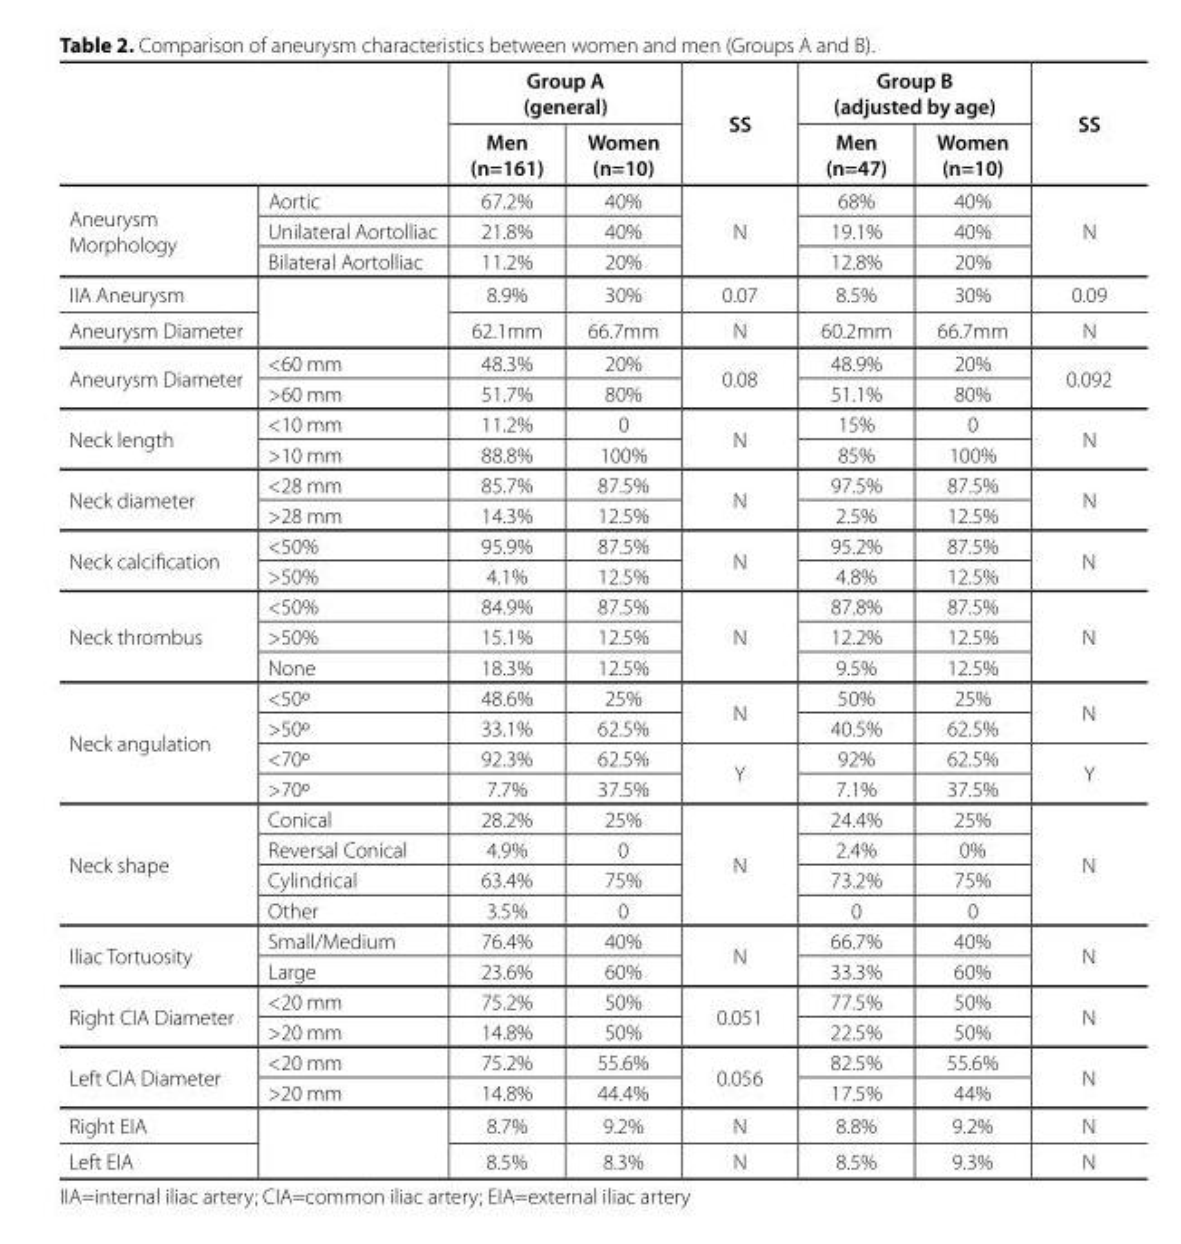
<table><thead><tr><td rowspan="2"></td><td rowspan="2"></td><td colspan="2">Group A (general)</td><td rowspan="2">SS</td><td colspan="2">Group B (adjusted by age)</td><td rowspan="2">SS</td></tr><tr><td>Men (n=161)</td><td>Women (n=10)</td><td>Men (n=47)</td><td>Women (n=10)</td></tr></thead><tbody><tr><td rowspan="3">Aneurysm Morphology</td><td>Aortic</td><td>67.2%</td><td>40%</td><td rowspan="3">N</td><td>68%</td><td>40%</td><td rowspan="3">N</td></tr><tr><td>Unilateral Aortolliac</td><td>21.8%</td><td>40%</td><td>19.1%</td><td>40%</td></tr><tr><td>Bilateral Aortolliac</td><td>11.2%</td><td>20%</td><td>12.8%</td><td>20%</td></tr><tr><td>IIA Aneurysm</td><td rowspan="2"></td><td>8.9%</td><td>30%</td><td>0.07</td><td>8.5%</td><td>30%</td><td>0.09</td></tr><tr><td>Aneurysm Diameter</td><td>62.1mm</td><td>66.7mm</td><td>N</td><td>60.2mm</td><td>66.7mm</td><td>N</td></tr><tr><td rowspan="2">Aneurysm Diameter</td><td>&lt;60 mm</td><td>48.3%</td><td>20%</td><td rowspan="2">0.08</td><td>48.9%</td><td>20%</td><td rowspan="2">0.092</td></tr><tr><td>&gt;60 mm</td><td>51.7%</td><td>80%</td><td>51.1%</td><td>80%</td></tr><tr><td rowspan="2">Neck length</td><td>&lt;10 mm</td><td>11.2%</td><td>0</td><td rowspan="2">N</td><td>15%</td><td>0</td><td rowspan="2">N</td></tr><tr><td>&gt;10 mm</td><td>88.8%</td><td>100%</td><td>85%</td><td>100%</td></tr><tr><td rowspan="2">Neck diameter</td><td>&lt;28 mm</td><td>85.7%</td><td>87.5%</td><td rowspan="2">N</td><td>97.5%</td><td>87.5%</td><td rowspan="2">N</td></tr><tr><td>&gt;28 mm</td><td>14.3%</td><td>12.5%</td><td>2.5%</td><td>12.5%</td></tr><tr><td rowspan="2">Neck calcification</td><td>&lt;50%</td><td>95.9%</td><td>87.5%</td><td rowspan="2">N</td><td>95.2%</td><td>87.5%</td><td rowspan="2">N</td></tr><tr><td>&gt;50%</td><td>4.1%</td><td>12.5%</td><td>4.8%</td><td>12.5%</td></tr><tr><td rowspan="3">Neck thrombus</td><td>&lt;50%</td><td>84.9%</td><td>87.5%</td><td rowspan="3">N</td><td>87.8%</td><td>87.5%</td><td rowspan="3">N</td></tr><tr><td>&gt;50%</td><td>15.1%</td><td>12.5%</td><td>12.2%</td><td>12.5%</td></tr><tr><td>None</td><td>18.3%</td><td>12.5%</td><td>9.5%</td><td>12.5%</td></tr><tr><td rowspan="4">Neck angulation</td><td>&lt;50º</td><td>48.6%</td><td>25%</td><td rowspan="2">N</td><td>50%</td><td>25%</td><td rowspan="2">N</td></tr><tr><td>&gt;50º</td><td>33.1%</td><td>62.5%</td><td>40.5%</td><td>62.5%</td></tr><tr><td>&lt;70º</td><td>92.3%</td><td>62.5%</td><td rowspan="2">Y</td><td>92%</td><td>62.5%</td><td rowspan="2">Y</td></tr><tr><td>&gt;70º</td><td>7.7%</td><td>37.5%</td><td>7.1%</td><td>37.5%</td></tr><tr><td rowspan="4">Neck shape</td><td>Conical</td><td>28.2%</td><td>25%</td><td rowspan="4">N</td><td>24.4%</td><td>25%</td><td rowspan="4">N</td></tr><tr><td>Reversal Conical</td><td>4.9%</td><td>0</td><td>2.4%</td><td>0%</td></tr><tr><td>Cylindrical</td><td>63.4%</td><td>75%</td><td>73.2%</td><td>75%</td></tr><tr><td>Other</td><td>3.5%</td><td>0</td><td>0</td><td>0</td></tr><tr><td rowspan="2">Iliac Tortuosity</td><td>Small/Medium</td><td>76.4%</td><td>40%</td><td rowspan="2">N</td><td>66.7%</td><td>40%</td><td rowspan="2">N</td></tr><tr><td>Large</td><td>23.6%</td><td>60%</td><td>33.3%</td><td>60%</td></tr><tr><td rowspan="2">Right CIA Diameter</td><td>&lt;20 mm</td><td>75.2%</td><td>50%</td><td rowspan="2">0.051</td><td>77.5%</td><td>50%</td><td rowspan="2">N</td></tr><tr><td>&gt;20 mm</td><td>14.8%</td><td>50%</td><td>22.5%</td><td>50%</td></tr><tr><td rowspan="2">Left CIA Diameter</td><td>&lt;20 mm</td><td>75.2%</td><td>55.6%</td><td rowspan="2">0.056</td><td>82.5%</td><td>55.6%</td><td rowspan="2">N</td></tr><tr><td>&gt;20 mm</td><td>14.8%</td><td>44.4%</td><td>17.5%</td><td>44%</td></tr><tr><td>Right EIA</td><td rowspan="2"></td><td>8.7%</td><td>9.2%</td><td>N</td><td>8.8%</td><td>9.2%</td><td>N</td></tr><tr><td>Left EIA</td><td>8.5%</td><td>8.3%</td><td>N</td><td>8.5%</td><td>9.3%</td><td>N</td></tr></tbody></table>